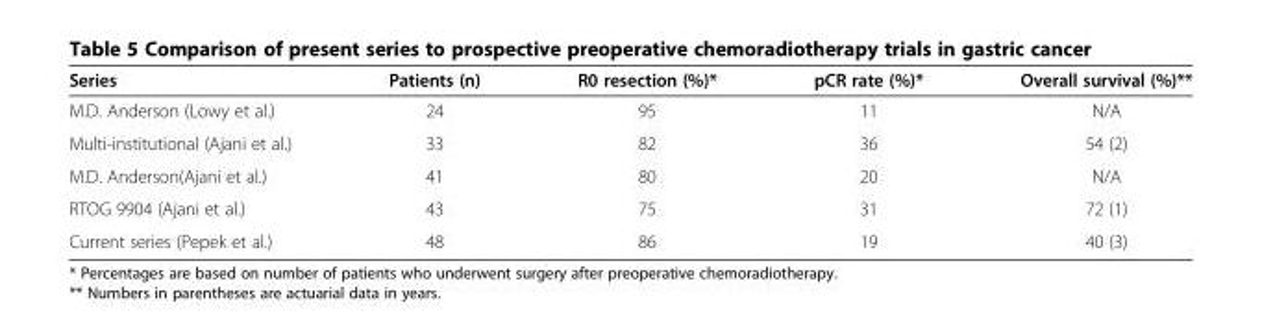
<table><thead><tr><td>Series</td><td>Patients (n)</td><td>R0 resection (%)*</td><td>pCR rate (%)*</td><td>Overall survival (%)**</td></tr></thead><tbody><tr><td>M.D. Anderson (Lowy et al.)</td><td>24</td><td>95</td><td>11</td><td>N/A</td></tr><tr><td>Multi-institutional (Ajani et al.)</td><td>33</td><td>82</td><td>36</td><td>54 (2)</td></tr><tr><td>M.D. Anderson(Ajani et al.)</td><td>41</td><td>80</td><td>20</td><td>N/A</td></tr><tr><td>RTOG 9904 (Ajani et al.)</td><td>43</td><td>75</td><td>31</td><td>72 (1)</td></tr><tr><td>Current series (Pepek et al.)</td><td>48</td><td>86</td><td>19</td><td>40 (3)</td></tr></tbody></table>